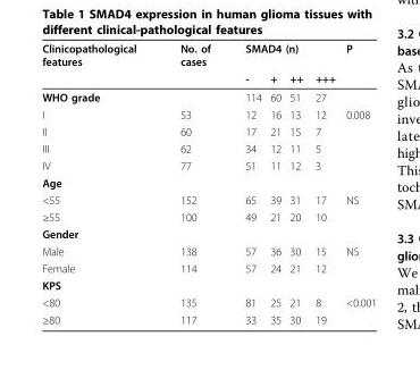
<table><thead><tr><td rowspan="2">Clinicopathological features</td><td rowspan="2">No. of cases</td><td colspan="4">SMAD4 (n)</td><td rowspan="2">P</td></tr><tr><td>-</td><td>+</td><td>++</td><td>+++</td></tr></thead><tbody><tr><td>WHO grade</td><td></td><td>114</td><td>60</td><td>51</td><td>27</td><td></td></tr><tr><td>I</td><td>53</td><td>12</td><td>16</td><td>13</td><td>12</td><td>0.008</td></tr><tr><td>II</td><td>60</td><td>17</td><td>21</td><td>15</td><td>7</td><td></td></tr><tr><td>III</td><td>62</td><td>34</td><td>12</td><td>11</td><td>5</td><td></td></tr><tr><td>IV</td><td>77</td><td>51</td><td>11</td><td>12</td><td>3</td><td></td></tr><tr><td colspan="7">Age</td></tr><tr><td>&lt;55</td><td>152</td><td>65</td><td>39</td><td>31</td><td>17</td><td>NS</td></tr><tr><td>≥55</td><td>100</td><td>49</td><td>21</td><td>20</td><td>10</td><td></td></tr><tr><td colspan="7">Gender</td></tr><tr><td>Male</td><td>138</td><td>57</td><td>36</td><td>30</td><td>15</td><td>NS</td></tr><tr><td>Female</td><td>114</td><td>57</td><td>24</td><td>21</td><td>12</td><td></td></tr><tr><td colspan="7">KPS</td></tr><tr><td>&lt;80</td><td>135</td><td>81</td><td>25</td><td>21</td><td>8</td><td>&lt;0.001</td></tr><tr><td>≥80</td><td>117</td><td>33</td><td>35</td><td>30</td><td>19</td><td></td></tr></tbody></table>